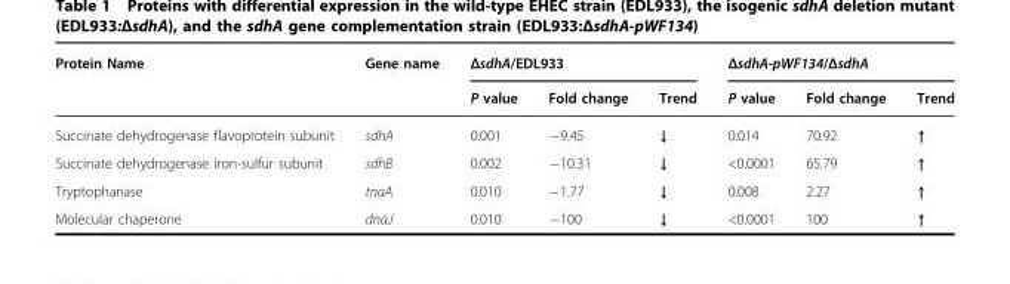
<table><thead><tr><td rowspan="2">Protein Name</td><td rowspan="2">Gene name</td><td colspan="3">ΔsdhA/EDL933</td><td colspan="3">ΔsdhA-pWF134/ΔsdhA</td></tr><tr><td>P value</td><td>Fold change</td><td>Trend</td><td>P value</td><td>Fold change</td><td>Trend</td></tr></thead><tbody><tr><td>Succinate dehydrogenase flavoprotein subunit</td><td>sdhA</td><td>0.001</td><td>−9.45</td><td>↓</td><td>0.014</td><td>70.92</td><td>↑</td></tr><tr><td>Succinate dehydrogenase iron-sulfur subunit</td><td>sdhB</td><td>0.002</td><td>−10.31</td><td>↓</td><td>&lt;0.0001</td><td>65.79</td><td>↑</td></tr><tr><td>Tryptophanase</td><td>tnaA</td><td>0.010</td><td>−1.77</td><td>↓</td><td>0.008</td><td>2.27</td><td>↑</td></tr><tr><td>Molecular chaperone</td><td>dnaJ</td><td>0.010</td><td>−100</td><td>↓</td><td>&lt;0.0001</td><td>100</td><td>↑</td></tr></tbody></table>